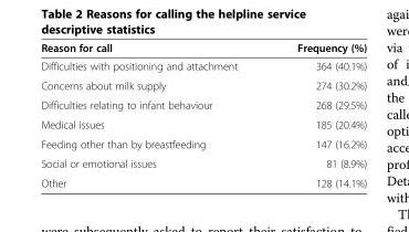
<table><thead><tr><td>Reason for call</td><td>Frequency (%)</td></tr></thead><tbody><tr><td>Difficulties with positioning and attachment</td><td>364 (40.1%)</td></tr><tr><td>Concerns about milk supply</td><td>274 (30.2%)</td></tr><tr><td>Difficulties relating to infant behaviour</td><td>268 (29.5%)</td></tr><tr><td>Medical issues</td><td>185 (20.4%)</td></tr><tr><td>Feeding other than by breastfeeding</td><td>147 (16.2%)</td></tr><tr><td>Social or emotional issues</td><td>81 (8.9%)</td></tr><tr><td>Other</td><td>128 (14.1%)</td></tr></tbody></table>